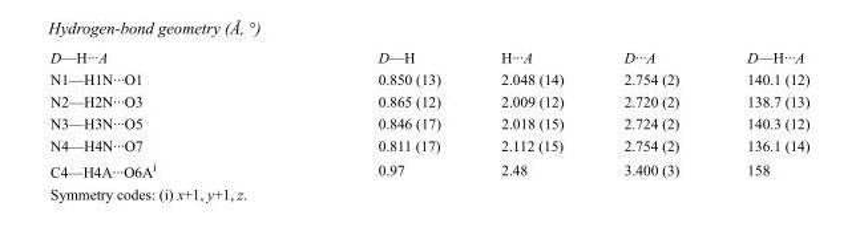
<table><tbody><tr><td>D—H···A</td><td>D—H</td><td>H···A</td><td>D···A</td><td>D—H···A</td></tr><tr><td>N1—H1N···O1</td><td>0.850 (13)</td><td>2.048 (14)</td><td>2.754 (2)</td><td>140.1 (12)</td></tr><tr><td>N2—H2N···O3</td><td>0.865 (12)</td><td>2.009 (12)</td><td>2.720 (2)</td><td>138.7 (13)</td></tr><tr><td>N3—H3N···O5</td><td>0.846 (17)</td><td>2.018 (15)</td><td>2.724 (2)</td><td>140.3 (12)</td></tr><tr><td>N4—H4N···O7</td><td>0.811 (17)</td><td>2.112 (15)</td><td>2.754 (2)</td><td>136.1 (14)</td></tr><tr><td>C4—H4A···O6A<sup>i</sup></td><td>0.97</td><td>2.48</td><td>3.400 (3)</td><td>158</td></tr></tbody></table>